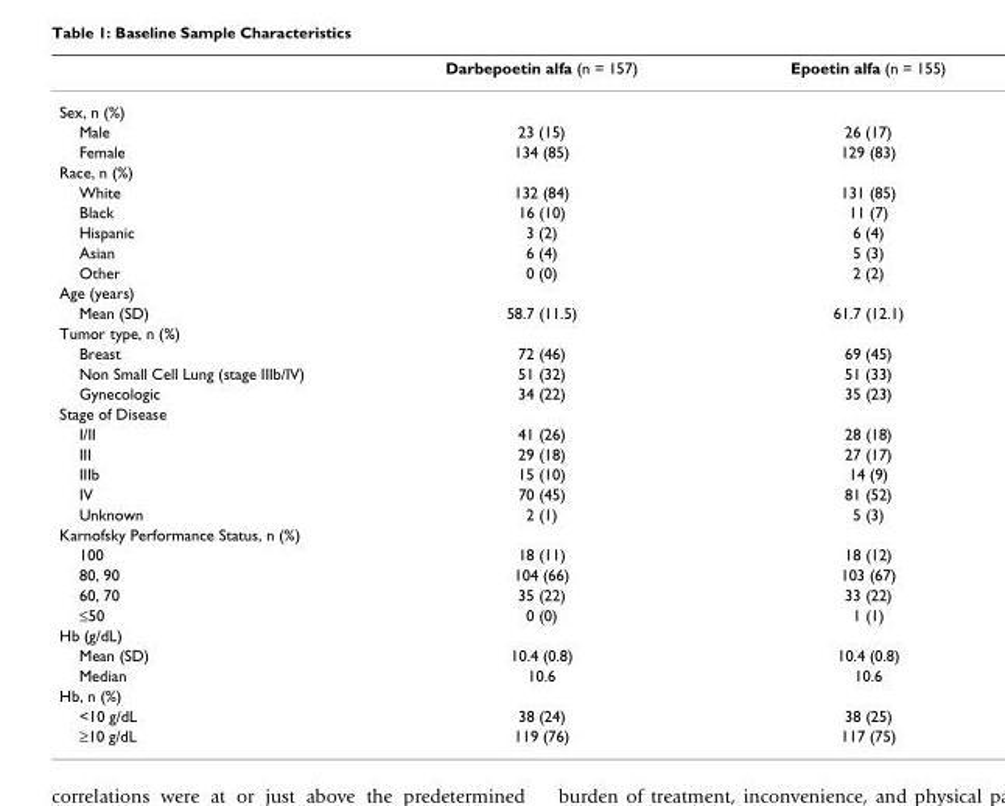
<table><thead><tr><td></td><td>Darbepoetin alfa (n = 157)</td><td>Epoetin alfa (n = 155)</td></tr></thead><tbody><tr><td colspan="3">Sex, n (%)</td></tr><tr><td>Male</td><td>23 (15)</td><td>26 (17)</td></tr><tr><td>Female</td><td>134 (85)</td><td>129 (83)</td></tr><tr><td colspan="3">Race, n (%)</td></tr><tr><td>White</td><td>132 (84)</td><td>131 (85)</td></tr><tr><td>Black</td><td>16 (10)</td><td>11 (7)</td></tr><tr><td>Hispanic</td><td>3 (2)</td><td>6 (4)</td></tr><tr><td>Asian</td><td>6 (4)</td><td>5 (3)</td></tr><tr><td>Other</td><td>0 (0)</td><td>2 (2)</td></tr><tr><td colspan="3">Age (years)</td></tr><tr><td>Mean (SD)</td><td>58.7 (11.5)</td><td>61.7 (12.1)</td></tr><tr><td colspan="3">Tumor type, n (%)</td></tr><tr><td>Breast</td><td>72 (46)</td><td>69 (45)</td></tr><tr><td>Non Small Cell Lung (stage IIIb/IV)</td><td>51 (32)</td><td>51 (33)</td></tr><tr><td>Gynecologic</td><td>34 (22)</td><td>35 (23)</td></tr><tr><td colspan="3">Stage of Disease</td></tr><tr><td>I/II</td><td>41 (26)</td><td>28 (18)</td></tr><tr><td>III</td><td>29 (18)</td><td>27 (17)</td></tr><tr><td>IIIb</td><td>15 (10)</td><td>14 (9)</td></tr><tr><td>IV</td><td>70 (45)</td><td>81 (52)</td></tr><tr><td>Unknown</td><td>2 (1)</td><td>5 (3)</td></tr><tr><td colspan="3">Karnofsky Performance Status, n (%)</td></tr><tr><td>100</td><td>18 (11)</td><td>18 (12)</td></tr><tr><td>80, 90</td><td>104 (66)</td><td>103 (67)</td></tr><tr><td>60, 70</td><td>35 (22)</td><td>33 (22)</td></tr><tr><td>≤50</td><td>0 (0)</td><td>1 (1)</td></tr><tr><td colspan="3">Hb (g/dL)</td></tr><tr><td>Mean (SD)</td><td>10.4 (0.8)</td><td>10.4 (0.8)</td></tr><tr><td>Median</td><td>10.6</td><td>10.6</td></tr><tr><td colspan="3">Hb, n (%)</td></tr><tr><td>&lt;10 g/dL</td><td>38 (24)</td><td>38 (25)</td></tr><tr><td>≥10 g/dL</td><td>119 (76)</td><td>117 (75)</td></tr></tbody></table>